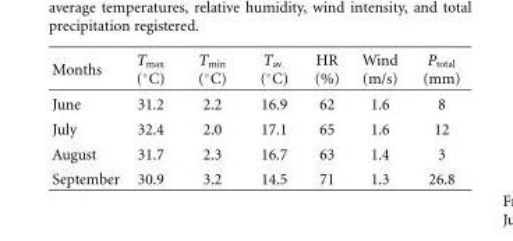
<table><thead><tr><td>Months</td><td>Tmax (◦C)</td><td>Tmin (◦C)</td><td>Tav. (◦C)</td><td>HR (%)</td><td>Wind (m/s)</td><td>P<sub>total</sub> (mm)</td></tr></thead><tbody><tr><td>June</td><td>31.2</td><td>2.2</td><td>16.9</td><td>62</td><td>1.6</td><td>8</td></tr><tr><td>July</td><td>32.4</td><td>2.0</td><td>17.1</td><td>65</td><td>1.6</td><td>12</td></tr><tr><td>August</td><td>31.7</td><td>2.3</td><td>16.7</td><td>63</td><td>1.4</td><td>3</td></tr><tr><td>September</td><td>30.9</td><td>3.2</td><td>14.5</td><td>71</td><td>1.3</td><td>26.8</td></tr></tbody></table>